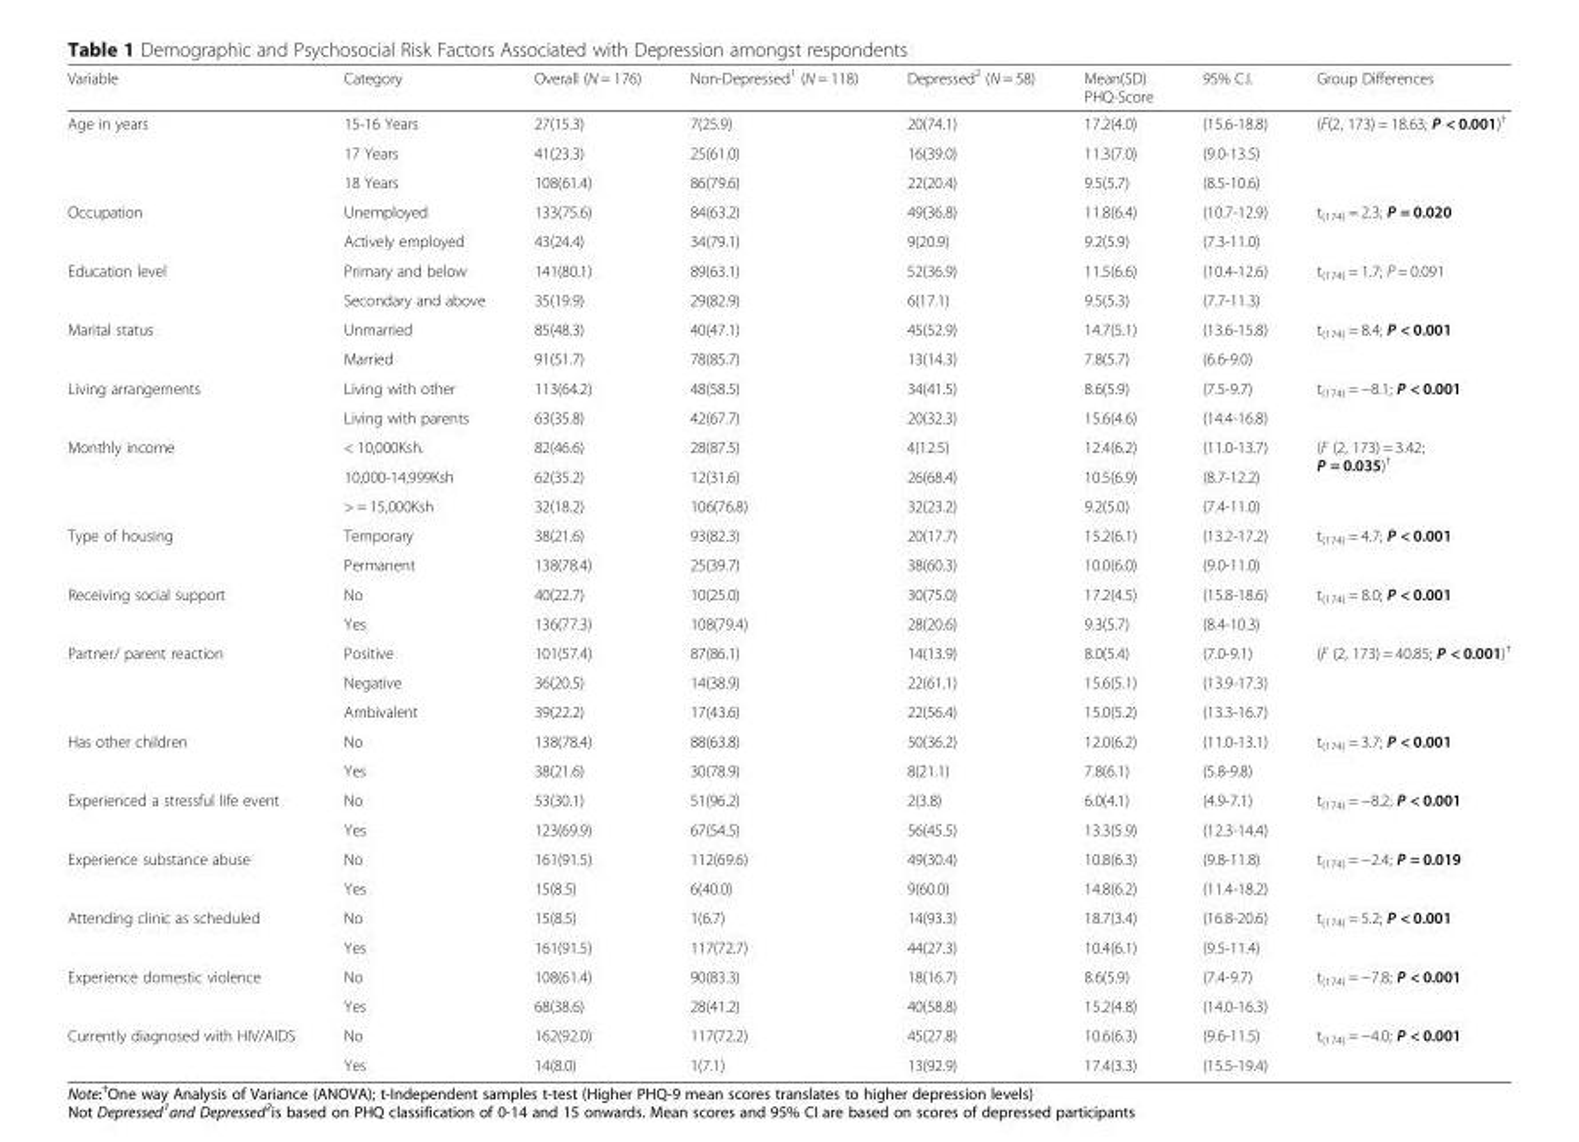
<table><thead><tr><td>Variable</td><td>Category</td><td>Overall (N = 176)</td><td>Non-Depressed<sup>1</sup> (N = 118)</td><td>Depressed<sup>2</sup> (N = 58)</td><td>Mean(SD) PHQ-Score</td><td>95% C.I.</td><td>Group Differences</td></tr></thead><tbody><tr><td rowspan="3">Age in years</td><td>15-16 Years</td><td>27(15.3)</td><td>7(25.9)</td><td>20(74.1)</td><td>17.2(4.0)</td><td>(15.6-18.8)</td><td rowspan="3">(F(2, 173) = 18.63; P &lt; 0.001)<sup>†</sup></td></tr><tr><td>17 Years</td><td>41(23.3)</td><td>25(61.0)</td><td>16(39.0)</td><td>11.3(7.0)</td><td>(9.0-13.5)</td></tr><tr><td>18 Years</td><td>108(61.4)</td><td>86(79.6)</td><td>22(20.4)</td><td>9.5(5.7)</td><td>(8.5-10.6)</td></tr><tr><td rowspan="2">Occupation</td><td>Unemployed</td><td>133(75.6)</td><td>84(63.2)</td><td>49(36.8)</td><td>11.8(6.4)</td><td>(10.7-12.9)</td><td rowspan="2">t<sub>(174)</sub> = 2.3; P = 0.020</td></tr><tr><td>Actively employed</td><td>43(24.4)</td><td>34(79.1)</td><td>9(20.9)</td><td>9.2(5.9)</td><td>(7.3-11.0)</td></tr><tr><td rowspan="2">Education level</td><td>Primary and below</td><td>141(80.1)</td><td>89(63.1)</td><td>52(36.9)</td><td>11.5(6.6)</td><td>(10.4-12.6)</td><td rowspan="2">t<sub>(174)</sub> = 1.7; P = 0.091</td></tr><tr><td>Secondary and above</td><td>35(19.9)</td><td>29(82.9)</td><td>6(17.1)</td><td>9.5(5.3)</td><td>(7.7-11.3)</td></tr><tr><td rowspan="2">Marital status</td><td>Unmarried</td><td>85(48.3)</td><td>40(47.1)</td><td>45(52.9)</td><td>14.7(5.1)</td><td>(13.6-15.8)</td><td rowspan="2">t<sub>(174)</sub> = 8.4; P &lt; 0.001</td></tr><tr><td>Married</td><td>91(51.7)</td><td>78(85.7)</td><td>13(14.3)</td><td>7.8(5.7)</td><td>(6.6-9.0)</td></tr><tr><td rowspan="2">Living arrangements</td><td>Living with other</td><td>113(64.2)</td><td>48(58.5)</td><td>34(41.5)</td><td>8.6(5.9)</td><td>(7.5-9.7)</td><td rowspan="2">t<sub>(174)</sub> = −8.1; P &lt; 0.001</td></tr><tr><td>Living with parents</td><td>63(35.8)</td><td>42(67.7)</td><td>20(32.3)</td><td>15.6(4.6)</td><td>(14.4-16.8)</td></tr><tr><td rowspan="3">Monthly income</td><td>&lt; 10,000Ksh.</td><td>82(46.6)</td><td>28(87.5)</td><td>4(12.5)</td><td>12.4(6.2)</td><td>(11.0-13.7)</td><td rowspan="3">(F (2, 173) = 3.42; P = 0.035)<sup>†</sup></td></tr><tr><td>10,000-14,999Ksh</td><td>62(35.2)</td><td>12(31.6)</td><td>26(68.4)</td><td>10.5(6.9)</td><td>(8.7-12.2)</td></tr><tr><td>&gt; = 15,000Ksh</td><td>32(18.2)</td><td>106(76.8)</td><td>32(23.2)</td><td>9.2(5.0)</td><td>(7.4-11.0)</td></tr><tr><td rowspan="2">Type of housing</td><td>Temporary</td><td>38(21.6)</td><td>93(82.3)</td><td>20(17.7)</td><td>15.2(6.1)</td><td>(13.2-17.2)</td><td rowspan="2">t<sub>(174)</sub> = 4.7; P &lt; 0.001</td></tr><tr><td>Permanent</td><td>138(78.4)</td><td>25(39.7)</td><td>38(60.3)</td><td>10.0(6.0)</td><td>(9.0-11.0)</td></tr><tr><td rowspan="2">Receiving social support</td><td>No</td><td>40(22.7)</td><td>10(25.0)</td><td>30(75.0)</td><td>17.2(4.5)</td><td>(15.8-18.6)</td><td rowspan="2">t<sub>(174)</sub> = 8.0; P &lt; 0.001</td></tr><tr><td>Yes</td><td>136(77.3)</td><td>108(79.4)</td><td>28(20.6)</td><td>9.3(5.7)</td><td>(8.4-10.3)</td></tr><tr><td rowspan="3">Partner/ parent reaction</td><td>Positive</td><td>101(57.4)</td><td>87(86.1)</td><td>14(13.9)</td><td>8.0(5.4)</td><td>(7.0-9.1)</td><td rowspan="3">(F (2, 173) = 40.85; P &lt; 0.001)<sup>†</sup></td></tr><tr><td>Negative</td><td>36(20.5)</td><td>14(38.9)</td><td>22(61.1)</td><td>15.6(5.1)</td><td>(13.9-17.3)</td></tr><tr><td>Ambivalent</td><td>39(22.2)</td><td>17(43.6)</td><td>22(56.4)</td><td>15.0(5.2)</td><td>(13.3-16.7)</td></tr><tr><td rowspan="2">Has other children</td><td>No</td><td>138(78.4)</td><td>88(63.8)</td><td>50(36.2)</td><td>12.0(6.2)</td><td>(11.0-13.1)</td><td rowspan="2">t<sub>(174)</sub> = 3.7; P &lt; 0.001</td></tr><tr><td>Yes</td><td>38(21.6)</td><td>30(78.9)</td><td>8(21.1)</td><td>7.8(6.1)</td><td>(5.8-9.8)</td></tr><tr><td rowspan="2">Experienced a stressful life event</td><td>No</td><td>53(30.1)</td><td>51(96.2)</td><td>2(3.8)</td><td>6.0(4.1)</td><td>(4.9-7.1)</td><td rowspan="2">t<sub>(174)</sub> = −8.2; P &lt; 0.001</td></tr><tr><td>Yes</td><td>123(69.9)</td><td>67(54.5)</td><td>56(45.5)</td><td>13.3(5.9)</td><td>(12.3-14.4)</td></tr><tr><td rowspan="2">Experience substance abuse</td><td>No</td><td>161(91.5)</td><td>112(69.6)</td><td>49(30.4)</td><td>10.8(6.3)</td><td>(9.8-11.8)</td><td rowspan="2">t<sub>(174)</sub> = −2.4; P = 0.019</td></tr><tr><td>Yes</td><td>15(8.5)</td><td>6(40.0)</td><td>9(60.0)</td><td>14.8(6.2)</td><td>(11.4-18.2)</td></tr><tr><td rowspan="2">Attending clinic as scheduled</td><td>No</td><td>15(8.5)</td><td>1(6.7)</td><td>14(93.3)</td><td>18.7(3.4)</td><td>(16.8-20.6)</td><td>t<sub>(174)</sub> = 5.2; P &lt; 0.001</td></tr><tr><td>Yes</td><td>161(91.5)</td><td>117(72.7)</td><td>44(27.3)</td><td>10.4(6.1)</td><td>(9.5-11.4)</td><td></td></tr><tr><td rowspan="2">Experience domestic violence</td><td>No</td><td>108(61.4)</td><td>90(83.3)</td><td>18(16.7)</td><td>8.6(5.9)</td><td>(7.4-9.7)</td><td rowspan="2">t<sub>(174)</sub> = −7.8; P &lt; 0.001</td></tr><tr><td>Yes</td><td>68(38.6)</td><td>28(41.2)</td><td>40(58.8)</td><td>15.2(4.8)</td><td>(14.0-16.3)</td></tr><tr><td rowspan="2">Currently diagnosed with HIV/AIDS</td><td>No</td><td>162(92.0)</td><td>117(72.2)</td><td>45(27.8)</td><td>10.6(6.3)</td><td>(9.6-11.5)</td><td rowspan="2">t<sub>(174)</sub> = −4.0; P &lt; 0.001</td></tr><tr><td>Yes</td><td>14(8.0)</td><td>1(7.1)</td><td>13(92.9)</td><td>17.4(3.3)</td><td>(15.5-19.4)</td></tr></tbody></table>